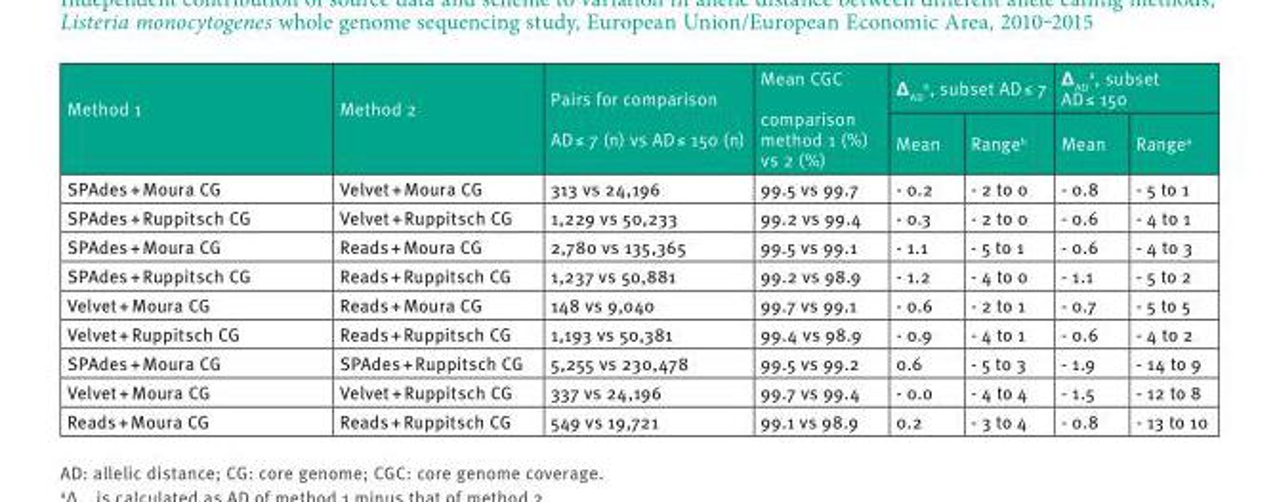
<table><thead><tr><td rowspan="2">Method 1</td><td rowspan="2">Method 2</td><td rowspan="2">Pairs for comparison AD ≤ 7 (n) vs AD ≤ 150 (n)</td><td rowspan="2">Mean CGC comparison method 1 (%) vs 2 (%)</td><td colspan="2">Δ<sub>AD</sub> <sup>a</sup>, subset AD ≤ 7</td><td colspan="2">Δ<sub>AD</sub> <sup>a</sup>, subset AD ≤ 150</td></tr><tr><td>Mean</td><td>Range<sup>b</sup></td><td>Mean</td><td>Range<sup>a</sup></td></tr></thead><tbody><tr><td>SPAdes + Moura CG</td><td>Velvet + Moura CG</td><td>313 vs 24,196</td><td>99.5 vs 99.7</td><td>- 0.2</td><td>- 2 to 0</td><td>- 0.8</td><td>- 5 to 1</td></tr><tr><td>SPAdes + Ruppitsch CG</td><td>Velvet + Ruppitsch CG</td><td>1,229 vs 50,233</td><td>99.2 vs 99.4</td><td>- 0.3</td><td>- 2 to 0</td><td>- 0.6</td><td>- 4 to 1</td></tr><tr><td>SPAdes + Moura CG</td><td>Reads + Moura CG</td><td>2,780 vs 135,365</td><td>99.5 vs 99.1</td><td>- 1.1</td><td>- 5 to 1</td><td>- 0.6</td><td>- 4 to 3</td></tr><tr><td>SPAdes + Ruppitsch CG</td><td>Reads + Ruppitsch CG</td><td>1,237 vs 50,881</td><td>99.2 vs 98.9</td><td>- 1.2</td><td>- 4 to 0</td><td>- 1.1</td><td>- 5 to 2</td></tr><tr><td>Velvet + Moura CG</td><td>Reads + Moura CG</td><td>148 vs 9,040</td><td>99.7 vs 99.1</td><td>- 0.6</td><td>- 2 to 1</td><td>- 0.7</td><td>- 5 to 5</td></tr><tr><td>Velvet + Ruppitsch CG</td><td>Reads + Ruppitsch CG</td><td>1,193 vs 50,381</td><td>99.4 vs 98.9</td><td>- 0.9</td><td>- 4 to 1</td><td>- 0.6</td><td>- 4 to 2</td></tr><tr><td>SPAdes + Moura CG</td><td>SPAdes + Ruppitsch CG</td><td>5,255 vs 230,478</td><td>99.5 vs 99.2</td><td>0.6</td><td>- 5 to 3</td><td>- 1.9</td><td>- 14 to 9</td></tr><tr><td>Velvet + Moura CG</td><td>Velvet + Ruppitsch CG</td><td>337 vs 24,196</td><td>99.7 vs 99.4</td><td>- 0.0</td><td>- 4 to 4</td><td>- 1.5</td><td>- 12 to 8</td></tr><tr><td>Reads + Moura CG</td><td>Reads + Ruppitsch CG</td><td>549 vs 19,721</td><td>99.1 vs 98.9</td><td>0.2</td><td>- 3 to 4</td><td>- 0.8</td><td>- 13 to 10</td></tr></tbody></table>